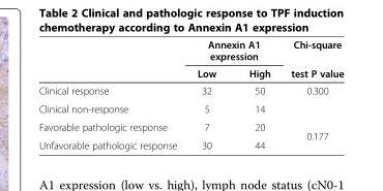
<table><thead><tr><td rowspan="2"></td><td colspan="2">Annexin A1 expression</td><td rowspan="2">Chi-square test P value</td></tr><tr><td>Low</td><td>High</td></tr></thead><tbody><tr><td>Clinical response</td><td>32</td><td>50</td><td rowspan="2">0.300</td></tr><tr><td>Clinical non-response</td><td>5</td><td>14</td></tr><tr><td>Favorable pathologic response</td><td>7</td><td>20</td><td rowspan="2">0.177</td></tr><tr><td>Unfavorable pathologic response</td><td>30</td><td>44</td></tr></tbody></table>